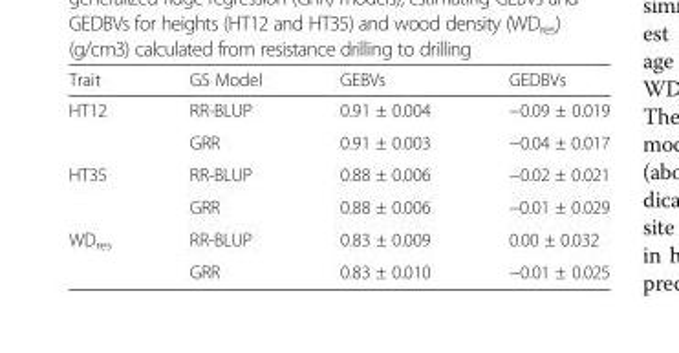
<table><thead><tr><td>Trait</td><td>GS Model</td><td>GEBVs</td><td>GEDBVs</td></tr></thead><tbody><tr><td rowspan="2">HT12</td><td>RR-BLUP</td><td>0.91 ± 0.004</td><td>−0.09 ± 0.019</td></tr><tr><td>GRR</td><td>0.91 ± 0.003</td><td>−0.04 ± 0.017</td></tr><tr><td rowspan="2">HT35</td><td>RR-BLUP</td><td>0.88 ± 0.006</td><td>−0.02 ± 0.021</td></tr><tr><td>GRR</td><td>0.88 ± 0.006</td><td>−0.01 ± 0.029</td></tr><tr><td rowspan="2">WD<sub>res</sub></td><td>RR-BLUP</td><td>0.83 ± 0.009</td><td>0.00 ± 0.032</td></tr><tr><td>GRR</td><td>0.83 ± 0.010</td><td>−0.01 ± 0.025</td></tr></tbody></table>